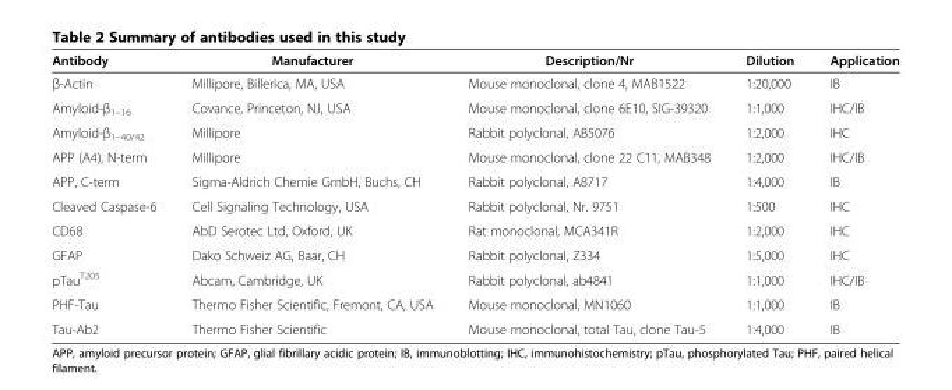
<table><thead><tr><td>Antibody</td><td>Manufacturer</td><td>Description/Nr</td><td>Dilution</td><td>Application</td></tr></thead><tbody><tr><td>β-Actin</td><td>Millipore, Billerica, MA, USA</td><td>Mouse monoclonal, clone 4, MAB1522</td><td>1:20,000</td><td>IB</td></tr><tr><td>Amyloid-β<sub>1–16</sub></td><td>Covance, Princeton, NJ, USA</td><td>Mouse monoclonal, clone 6E10, SIG-39320</td><td>1:1,000</td><td>IHC/IB</td></tr><tr><td>Amyloid-β<sub>1–40/42</sub></td><td>Millipore</td><td>Rabbit polyclonal, AB5076</td><td>1:2,000</td><td>IHC</td></tr><tr><td>APP (A4), N-term</td><td>Millipore</td><td>Mouse monoclonal, clone 22 C11, MAB348</td><td>1:2,000</td><td>IHC/IB</td></tr><tr><td>APP, C-term</td><td>Sigma-Aldrich Chemie GmbH, Buchs, CH</td><td>Rabbit polyclonal, A8717</td><td>1:4,000</td><td>IB</td></tr><tr><td>Cleaved Caspase-6</td><td>Cell Signaling Technology, USA</td><td>Rabbit polyclonal, Nr. 9751</td><td>1:500</td><td>IHC</td></tr><tr><td>CD68</td><td>AbD Serotec Ltd, Oxford, UK</td><td>Rat monoclonal, MCA341R</td><td>1:2,000</td><td>IHC</td></tr><tr><td>GFAP</td><td>Dako Schweiz AG, Baar, CH</td><td>Rabbit polyclonal, Z334</td><td>1:5,000</td><td>IHC</td></tr><tr><td>pTau<sup>T205</sup></td><td>Abcam, Cambridge, UK</td><td>Rabbit polyclonal, ab4841</td><td>1:1,000</td><td>IHC/IB</td></tr><tr><td>PHF-Tau</td><td>Thermo Fisher Scientific, Fremont, CA, USA</td><td>Mouse monoclonal, MN1060</td><td>1:1,000</td><td>IB</td></tr><tr><td>Tau-Ab2</td><td>Thermo Fisher Scientific</td><td>Mouse monoclonal, total Tau, clone Tau-5</td><td>1:4,000</td><td>IB</td></tr></tbody></table>